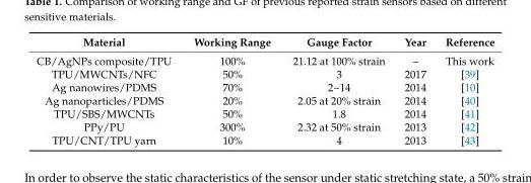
<table><thead><tr><td>Material</td><td>Working Range</td><td>Gauge Factor</td><td>Year</td><td>Reference</td></tr></thead><tbody><tr><td>CB/AgNPs composite/TPU</td><td>100%</td><td>21.12 at 100% strain</td><td>–</td><td>This work</td></tr><tr><td>TPU/MWCNTs/NFC</td><td>50%</td><td>3</td><td>2017</td><td>[39]</td></tr><tr><td>Ag nanowires/PDMS</td><td>70%</td><td>2~14</td><td>2014</td><td>[10]</td></tr><tr><td>Ag nanoparticles/PDMS</td><td>20%</td><td>2.05 at 20% strain</td><td>2014</td><td>[40]</td></tr><tr><td>TPU/SBS/MWCNTs</td><td>50%</td><td>1.8</td><td>2014</td><td>[41]</td></tr><tr><td>PPy/PU</td><td>300%</td><td>2.32 at 50% strain</td><td>2013</td><td>[42]</td></tr><tr><td>TPU/CNT/TPU yarn</td><td>10%</td><td>4</td><td>2013</td><td>[43]</td></tr></tbody></table>